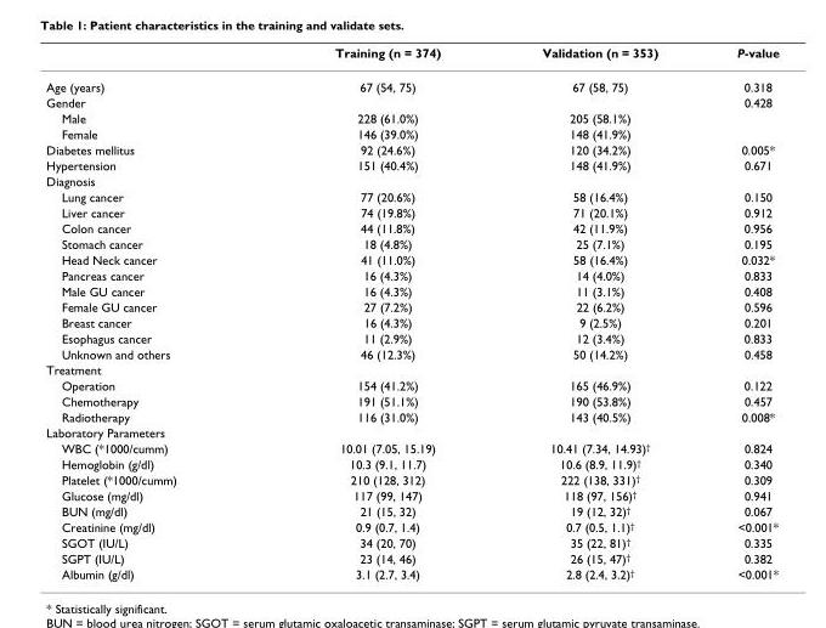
<table><thead><tr><td></td><td>Training (n = 374)</td><td>Validation (n = 353)</td><td>P-value</td></tr></thead><tbody><tr><td>Age (years)</td><td>67 (54, 75)</td><td>67 (58, 75)</td><td>0.318</td></tr><tr><td>Gender</td><td></td><td></td><td>0.428</td></tr><tr><td>Male</td><td>228 (61.0%)</td><td>205 (58.1%)</td><td></td></tr><tr><td>Female</td><td>146 (39.0%)</td><td>148 (41.9%)</td><td></td></tr><tr><td>Diabetes mellitus</td><td>92 (24.6%)</td><td>120 (34.2%)</td><td>0.005*</td></tr><tr><td>Hypertension</td><td>151 (40.4%)</td><td>148 (41.9%)</td><td>0.671</td></tr><tr><td colspan="4">Diagnosis</td></tr><tr><td>Lung cancer</td><td>77 (20.6%)</td><td>58 (16.4%)</td><td>0.150</td></tr><tr><td>Liver cancer</td><td>74 (19.8%)</td><td>71 (20.1%)</td><td>0.912</td></tr><tr><td>Colon cancer</td><td>44 (11.8%)</td><td>42 (11.9%)</td><td>0.956</td></tr><tr><td>Stomach cancer</td><td>18 (4.8%)</td><td>25 (7.1%)</td><td>0.195</td></tr><tr><td>Head Neck cancer</td><td>41 (11.0%)</td><td>58 (16.4%)</td><td>0.032*</td></tr><tr><td>Pancreas cancer</td><td>16 (4.3%)</td><td>14 (4.0%)</td><td>0.833</td></tr><tr><td>Male GU cancer</td><td>16 (4.3%)</td><td>11 (3.1%)</td><td>0.408</td></tr><tr><td>Female GU cancer</td><td>27 (7.2%)</td><td>22 (6.2%)</td><td>0.596</td></tr><tr><td>Breast cancer</td><td>16 (4.3%)</td><td>9 (2.5%)</td><td>0.201</td></tr><tr><td>Esophagus cancer</td><td>11 (2.9%)</td><td>12 (3.4%)</td><td>0.833</td></tr><tr><td>Unknown and others</td><td>46 (12.3%)</td><td>50 (14.2%)</td><td>0.458</td></tr><tr><td colspan="4">Treatment</td></tr><tr><td>Operation</td><td>154 (41.2%)</td><td>165 (46.9%)</td><td>0.122</td></tr><tr><td>Chemotherapy</td><td>191 (51.1%)</td><td>190 (53.8%)</td><td>0.457</td></tr><tr><td>Radiotherapy</td><td>116 (31.0%)</td><td>143 (40.5%)</td><td>0.008*</td></tr><tr><td colspan="4">Laboratory Parameters</td></tr><tr><td>WBC (*1000/cumm)</td><td>10.01 (7.05, 15.19)</td><td>10.41 (7.34, 14.93)<sup>†</sup></td><td>0.824</td></tr><tr><td>Hemoglobin (g/dl)</td><td>10.3 (9.1, 11.7)</td><td>10.6 (8.9, 11.9)<sup>†</sup></td><td>0.340</td></tr><tr><td>Platelet (*1000/cumm)</td><td>210 (128, 312)</td><td>222 (138, 331)<sup>†</sup></td><td>0.309</td></tr><tr><td>Glucose (mg/dl)</td><td>117 (99, 147)</td><td>118 (97, 156)<sup>†</sup></td><td>0.941</td></tr><tr><td>BUN (mg/dl)</td><td>21 (15, 32)</td><td>19 (12, 32)<sup>†</sup></td><td>0.067</td></tr><tr><td>Creatinine (mg/dl)</td><td>0.9 (0.7, 1.4)</td><td>0.7 (0.5, 1.1)<sup>†</sup></td><td>&lt;0.001*</td></tr><tr><td>SGOT (IU/L)</td><td>34 (20, 70)</td><td>35 (22, 81)<sup>†</sup></td><td>0.335</td></tr><tr><td>SGPT (IU/L)</td><td>23 (14, 46)</td><td>26 (15, 47)<sup>†</sup></td><td>0.382</td></tr><tr><td>Albumin (g/dl)</td><td>3.1 (2.7, 3.4)</td><td>2.8 (2.4, 3.2)<sup>†</sup></td><td>&lt;0.001*</td></tr></tbody></table>